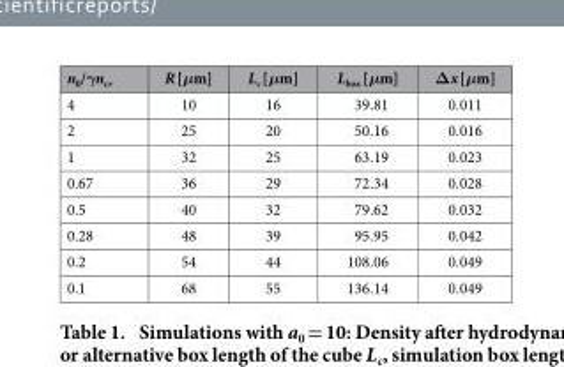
<table><thead><tr><td>n<sub>0</sub>/γn<sub>cr</sub></td><td>R [μm]</td><td>L<sub>c</sub> [μm]</td><td>L<sub>box</sub> [μm]</td><td>Δx [μm]</td></tr></thead><tbody><tr><td>4</td><td>10</td><td>16</td><td>39.81</td><td>0.011</td></tr><tr><td>2</td><td>25</td><td>20</td><td>50.16</td><td>0.016</td></tr><tr><td>1</td><td>32</td><td>25</td><td>63.19</td><td>0.023</td></tr><tr><td>0.67</td><td>36</td><td>29</td><td>72.34</td><td>0.028</td></tr><tr><td>0.5</td><td>40</td><td>32</td><td>79.62</td><td>0.032</td></tr><tr><td>0.28</td><td>48</td><td>39</td><td>95.95</td><td>0.042</td></tr><tr><td>0.2</td><td>54</td><td>44</td><td>108.06</td><td>0.049</td></tr><tr><td>0.1</td><td>68</td><td>55</td><td>136.14</td><td>0.049</td></tr></tbody></table>